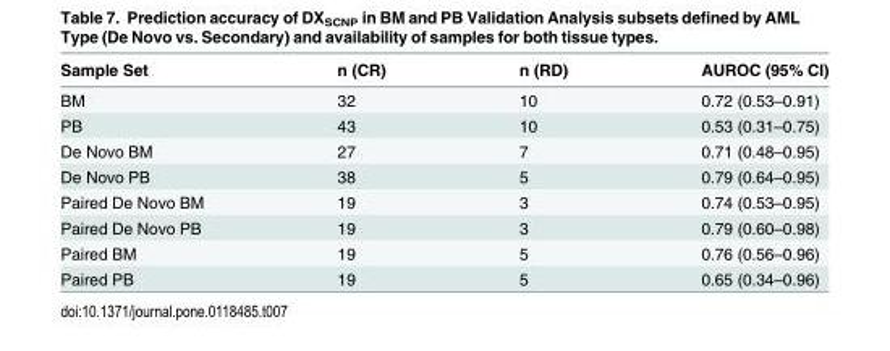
<table><thead><tr><td>Sample Set</td><td>n (CR)</td><td>n (RD)</td><td>AUROC (95% CI)</td></tr></thead><tbody><tr><td>BM</td><td>32</td><td>10</td><td>0.72 (0.53–0.91)</td></tr><tr><td>PB</td><td>43</td><td>10</td><td>0.53 (0.31–0.75)</td></tr><tr><td>De Novo BM</td><td>27</td><td>7</td><td>0.71 (0.48–0.95)</td></tr><tr><td>De Novo PB</td><td>38</td><td>5</td><td>0.79 (0.64–0.95)</td></tr><tr><td>Paired De Novo BM</td><td>19</td><td>3</td><td>0.74 (0.53–0.95)</td></tr><tr><td>Paired De Novo PB</td><td>19</td><td>3</td><td>0.79 (0.60–0.98)</td></tr><tr><td>Paired BM</td><td>19</td><td>5</td><td>0.76 (0.56–0.96)</td></tr><tr><td>Paired PB</td><td>19</td><td>5</td><td>0.65 (0.34–0.96)</td></tr></tbody></table>